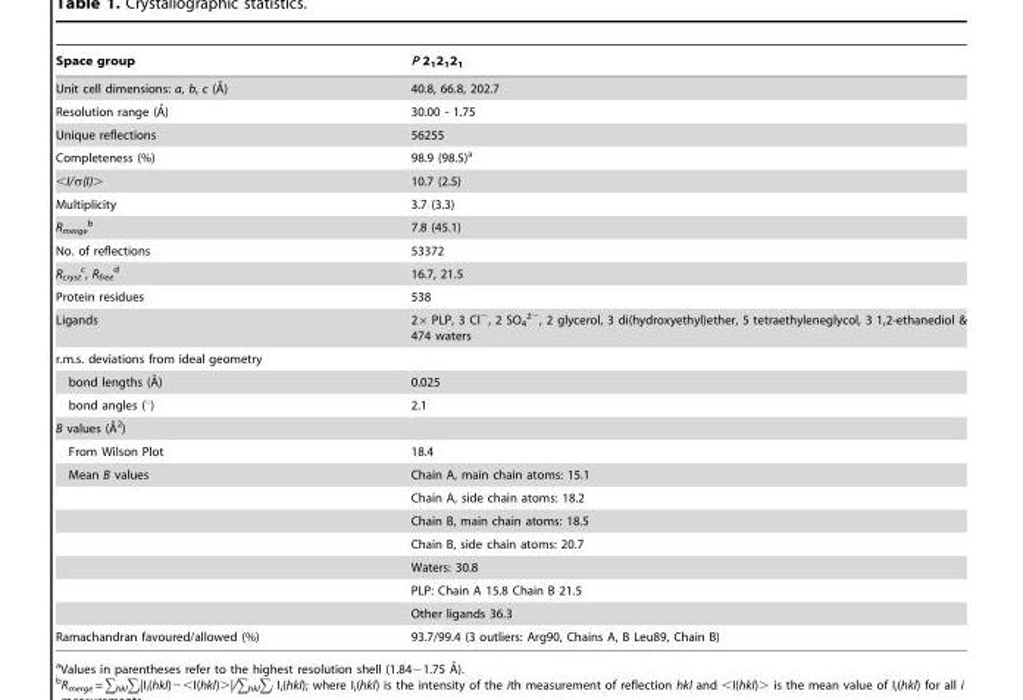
<table><thead><tr><td>Space group</td><td>P 2<sub>1</sub>2<sub>1</sub>2<sub>1</sub></td></tr></thead><tbody><tr><td>Unit cell dimensions: a, b, c (A˚)</td><td>40.8, 66.8, 202.7</td></tr><tr><td>Resolution range (A˚)</td><td>30.00 - 1.75</td></tr><tr><td>Unique reflections</td><td>56255</td></tr><tr><td>Completeness (%)</td><td>98.9 (98.5)<sup>a</sup></td></tr><tr><td>&lt;I/σ(I)&gt;</td><td>10.7 (2.5)</td></tr><tr><td>Multiplicity</td><td>3.7 (3.3)</td></tr><tr><td>R<sub>merge</sub> b</td><td>7.8 (45.1)</td></tr><tr><td>No. of reflections</td><td>53372</td></tr><tr><td>R<sub>cryst</sub> c, R<sub>free</sub> d</td><td>16.7, 21.5</td></tr><tr><td>Protein residues</td><td>538</td></tr><tr><td>Ligands</td><td>2× PLP, 3 Cl<sup>−</sup>, 2 SO<sub>4</sub> <sup>2−</sup>, 2 glycerol, 3 di(hydroxyethyl)ether, 5 tetraethyleneglycol, 3 1,2-ethanediol &amp; 474 waters</td></tr><tr><td colspan="2">r.m.s. deviations from ideal geometry</td></tr><tr><td>bond lengths (A˚)</td><td>0.025</td></tr><tr><td>bond angles (°)</td><td>2.1</td></tr><tr><td colspan="2">B values (A˚2)</td></tr><tr><td>From Wilson Plot</td><td>18.4</td></tr><tr><td rowspan="7">Mean B values</td><td>Chain A, main chain atoms: 15.1</td></tr><tr><td>Chain A, side chain atoms: 18.2</td></tr><tr><td>Chain B, main chain atoms: 18.5</td></tr><tr><td>Chain B, side chain atoms: 20.7</td></tr><tr><td>Waters: 30.8</td></tr><tr><td>PLP: Chain A 15.8 Chain B 21.5</td></tr><tr><td>Other ligands 36.3</td></tr><tr><td>Ramachandran favoured/allowed (%)</td><td>93.7/99.4 (3 outliers: Arg90, Chains A, B Leu89, Chain B)</td></tr></tbody></table>